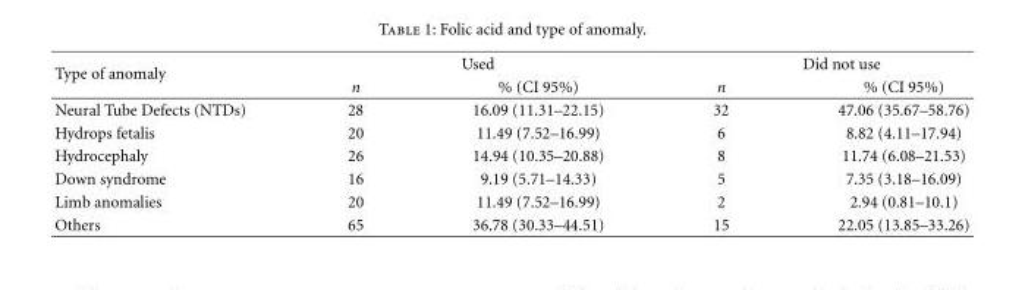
<table><thead><tr><td rowspan="2">Type of anomaly</td><td colspan="2">Used</td><td colspan="2">Did not use</td></tr><tr><td>n</td><td>% (CI 95%)</td><td>n</td><td>% (CI 95%)</td></tr></thead><tbody><tr><td>Neural Tube Defects (NTDs)</td><td>28</td><td>16.09 (11.31–22.15)</td><td>32</td><td>47.06 (35.67–58.76)</td></tr><tr><td>Hydrops fetalis</td><td>20</td><td>11.49 (7.52–16.99)</td><td>6</td><td>8.82 (4.11–17.94)</td></tr><tr><td>Hydrocephaly</td><td>26</td><td>14.94 (10.35–20.88)</td><td>8</td><td>11.74 (6.08–21.53)</td></tr><tr><td>Down syndrome</td><td>16</td><td>9.19 (5.71–14.33)</td><td>5</td><td>7.35 (3.18–16.09)</td></tr><tr><td>Limb anomalies</td><td>20</td><td>11.49 (7.52–16.99)</td><td>2</td><td>2.94 (0.81–10.1)</td></tr><tr><td>Others</td><td>65</td><td>36.78 (30.33–44.51)</td><td>15</td><td>22.05 (13.85–33.26)</td></tr></tbody></table>